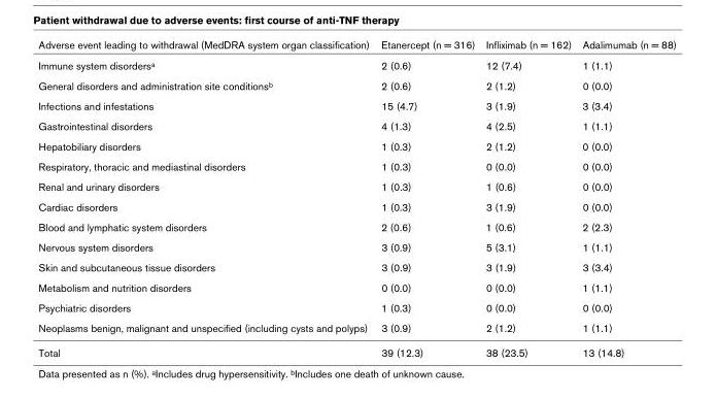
<table><thead><tr><td>Adverse event leading to withdrawal (MedDRA system organ classification)</td><td>Etanercept (n = 316)</td><td>Infliximab (n = 162)</td><td>Adalimumab (n = 88)</td></tr></thead><tbody><tr><td>Immune system disorders<sup>a</sup></td><td>2 (0.6)</td><td>12 (7.4)</td><td>1 (1.1)</td></tr><tr><td>General disorders and administration site conditions<sup>b</sup></td><td>2 (0.6)</td><td>2 (1.2)</td><td>0 (0.0)</td></tr><tr><td>Infections and infestations</td><td>15 (4.7)</td><td>3 (1.9)</td><td>3 (3.4)</td></tr><tr><td>Gastrointestinal disorders</td><td>4 (1.3)</td><td>4 (2.5)</td><td>1 (1.1)</td></tr><tr><td>Hepatobiliary disorders</td><td>1 (0.3)</td><td>2 (1.2)</td><td>0 (0.0)</td></tr><tr><td>Respiratory, thoracic and mediastinal disorders</td><td>1 (0.3)</td><td>0 (0.0)</td><td>0 (0.0)</td></tr><tr><td>Renal and urinary disorders</td><td>1 (0.3)</td><td>1 (0.6)</td><td>0 (0.0)</td></tr><tr><td>Cardiac disorders</td><td>1 (0.3)</td><td>3 (1.9)</td><td>0 (0.0)</td></tr><tr><td>Blood and lymphatic system disorders</td><td>2 (0.6)</td><td>1 (0.6)</td><td>2 (2.3)</td></tr><tr><td>Nervous system disorders</td><td>3 (0.9)</td><td>5 (3.1)</td><td>1 (1.1)</td></tr><tr><td>Skin and subcutaneous tissue disorders</td><td>3 (0.9)</td><td>3 (1.9)</td><td>3 (3.4)</td></tr><tr><td>Metabolism and nutrition disorders</td><td>0 (0.0)</td><td>0 (0.0)</td><td>1 (1.1)</td></tr><tr><td>Psychiatric disorders</td><td>1 (0.3)</td><td>0 (0.0)</td><td>0 (0.0)</td></tr><tr><td>Neoplasms benign, malignant and unspecified (including cysts and polyps)</td><td>3 (0.9)</td><td>2 (1.2)</td><td>1 (1.1)</td></tr><tr><td>Total</td><td>39 (12.3)</td><td>38 (23.5)</td><td>13 (14.8)</td></tr></tbody></table>